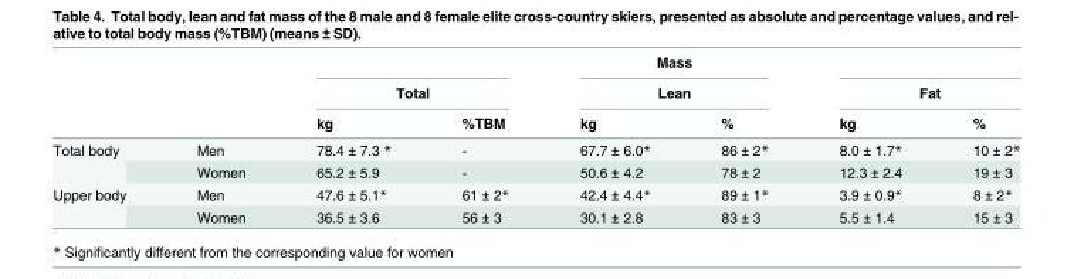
<table><thead><tr><td rowspan="3"></td><td rowspan="3"></td><td></td><td></td><td rowspan="2" colspan="2">Mass Lean</td><td></td><td></td></tr><tr><td colspan="2">Total</td><td colspan="2">Fat</td></tr><tr><td>kg</td><td>%TBM</td><td>kg</td><td>%</td><td>kg</td><td>%</td></tr></thead><tbody><tr><td rowspan="2">Total body</td><td>Men</td><td>78.4 ± 7.3 *</td><td>-</td><td>67.7 ± 6.0*</td><td>86 ± 2*</td><td>8.0 ± 1.7*</td><td>10 ± 2*</td></tr><tr><td>Women</td><td>65.2 ± 5.9</td><td>-</td><td>50.6 ± 4.2</td><td>78 ± 2</td><td>12.3 ± 2.4</td><td>19 ± 3</td></tr><tr><td rowspan="2">Upper body</td><td>Men</td><td>47.6 ± 5.1*</td><td>61 ± 2*</td><td>42.4 ± 4.4*</td><td>89 ± 1*</td><td>3.9 ± 0.9*</td><td>8 ± 2*</td></tr><tr><td>Women</td><td>36.5 ± 3.6</td><td>56 ± 3</td><td>30.1 ± 2.8</td><td>83 ± 3</td><td>5.5 ± 1.4</td><td>15 ± 3</td></tr></tbody></table>